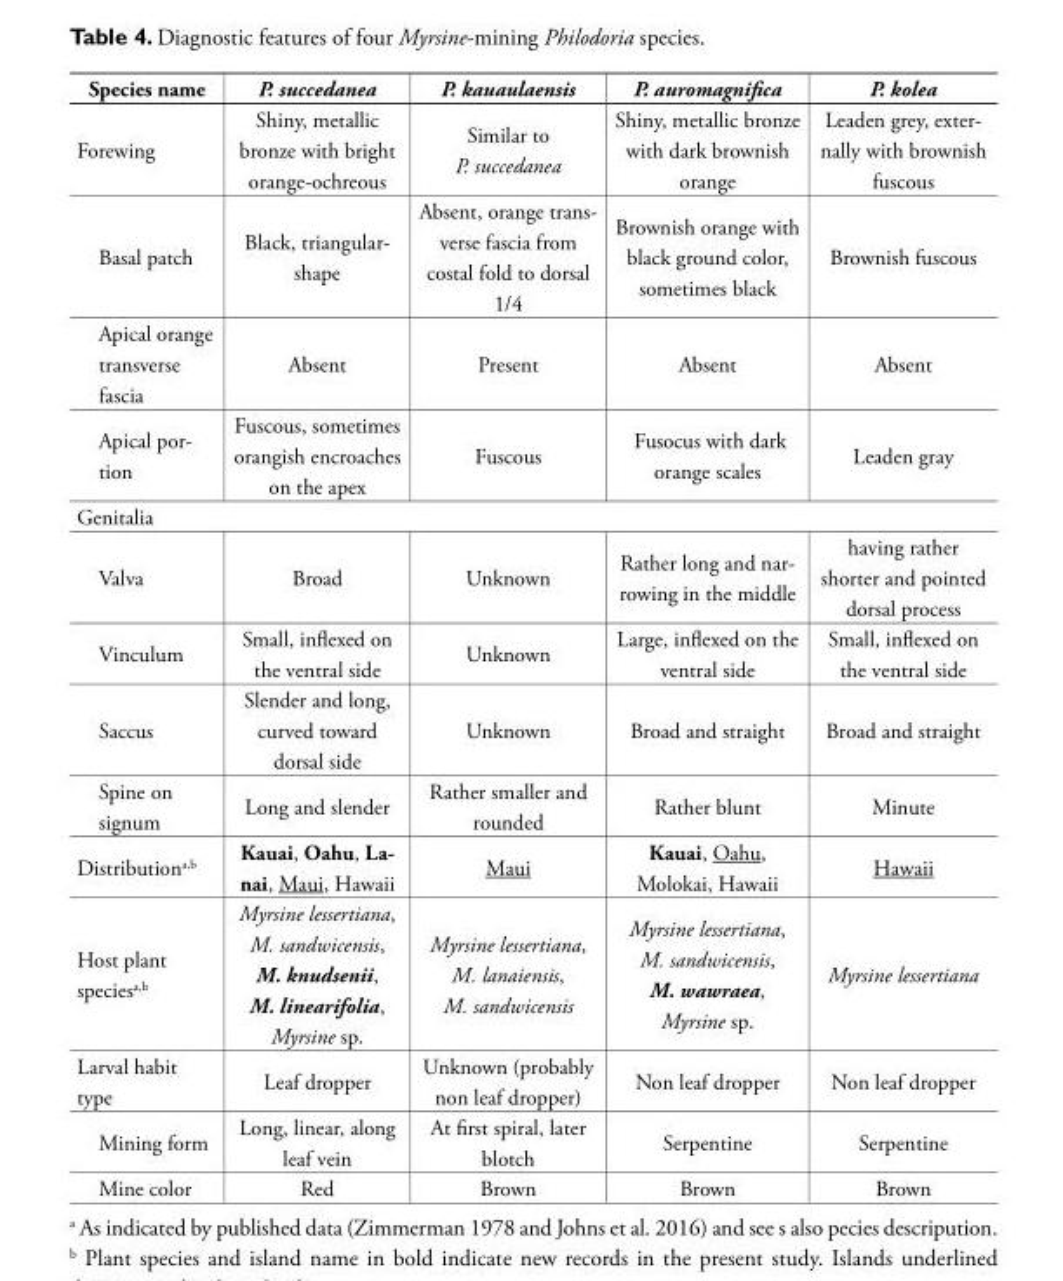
<table><thead><tr><td>Species name</td><td>P. succedanea</td><td>P. kauaulaensis</td><td>P. auromagnifica</td><td>P. kolea</td></tr></thead><tbody><tr><td>Forewing</td><td>Shiny, metallic bronze with bright orange-ochreous</td><td>Similar to P. succedanea</td><td>Shiny, metallic bronze with dark brownish orange</td><td>Leaden grey, exter- nally with brownish fuscous</td></tr><tr><td>Basal patch</td><td>Black, triangular- shape</td><td>Absent, orange trans- verse fascia from costal fold to dorsal 1/4</td><td>Brownish orange with black ground color, sometimes black</td><td>Brownish fuscous</td></tr><tr><td>Apical orange transverse fascia</td><td>Absent</td><td>Present</td><td>Absent</td><td>Absent</td></tr><tr><td>Apical por- tion</td><td>Fuscous, sometimes orangish encroaches on the apex</td><td>Fuscous</td><td>Fusocus with dark orange scales</td><td>Leaden gray</td></tr><tr><td colspan="5">Genitalia</td></tr><tr><td>Valva</td><td>Broad</td><td>Unknown</td><td>Rather long and nar- rowing in the middle</td><td>having rather shorter and pointed dorsal process</td></tr><tr><td>Vinculum</td><td>Small, inflexed on the ventral side</td><td>Unknown</td><td>Large, inflexed on the ventral side</td><td>Small, inflexed on the ventral side</td></tr><tr><td>Saccus</td><td>Slender and long, curved toward dorsal side</td><td>Unknown</td><td>Broad and straight</td><td>Broad and straight</td></tr><tr><td>Spine on signum</td><td>Long and slender</td><td>Rather smaller and rounded</td><td>Rather blunt</td><td>Minute</td></tr><tr><td>Distribution<sup>a,b</sup></td><td>Kauai, Oahu, La- nai, Maui, Hawaii</td><td>Maui</td><td>Kauai, Oahu, Molokai, Hawaii</td><td>Hawaii</td></tr><tr><td>Host plant species<sup>a,b</sup></td><td>Myrsine lessertiana, M. sandwicensis, M. knudsenii, M. linearifolia, Myrsine sp.</td><td>Myrsine lessertiana, M. lanaiensis, M. sandwicensis</td><td>Myrsine lessertiana, M. sandwicensis, M. wawraea, Myrsine sp.</td><td>Myrsine lessertiana</td></tr><tr><td>Larval habit type</td><td>Leaf dropper</td><td>Unknown (probably non leaf dropper)</td><td>Non leaf dropper</td><td>Non leaf dropper</td></tr><tr><td>Mining form</td><td>Long, linear, along leaf vein</td><td>At first spiral, later blotch</td><td>Serpentine</td><td>Serpentine</td></tr><tr><td>Mine color</td><td>Red</td><td>Brown</td><td>Brown</td><td>Brown</td></tr></tbody></table>